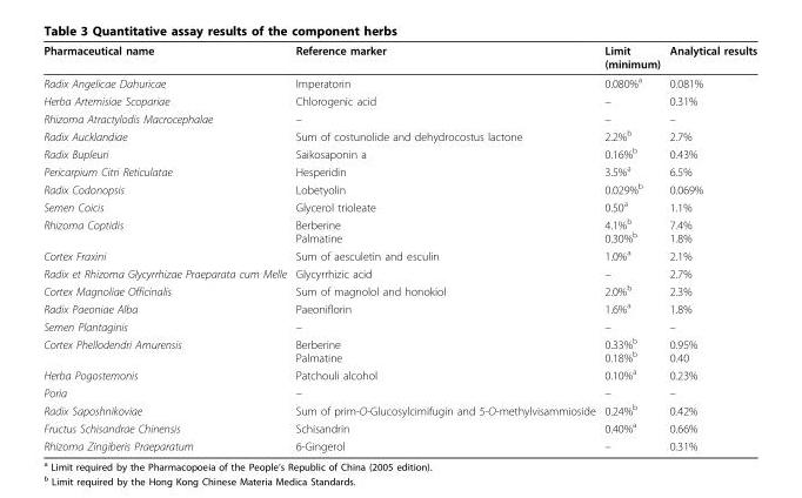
<table><thead><tr><td>Pharmaceutical name</td><td>Reference marker</td><td>Limit (minimum)</td><td>Analytical results</td></tr></thead><tbody><tr><td>Radix Angelicae Dahuricae</td><td>Imperatorin</td><td>0.080%<sup>a</sup></td><td>0.081%</td></tr><tr><td>Herba Artemisiae Scopariae</td><td>Chlorogenic acid</td><td>–</td><td>0.31%</td></tr><tr><td>Rhizoma Atractylodis Macrocephalae</td><td>–</td><td>–</td><td>–</td></tr><tr><td>Radix Aucklandiae</td><td>Sum of costunolide and dehydrocostus lactone</td><td>2.2%<sup>b</sup></td><td>2.7%</td></tr><tr><td>Radix Bupleuri</td><td>Saikosaponin a</td><td>0.16%<sup>b</sup></td><td>0.43%</td></tr><tr><td>Pericarpium Citri Reticulatae</td><td>Hesperidin</td><td>3.5%<sup>a</sup></td><td>6.5%</td></tr><tr><td>Radix Codonopsis</td><td>Lobetyolin</td><td>0.029%<sup>b</sup></td><td>0.069%</td></tr><tr><td>Semen Coicis</td><td>Glycerol trioleate</td><td>0.50<sup>a</sup></td><td>1.1%</td></tr><tr><td>Rhizoma Coptidis</td><td>Berberine Palmatine</td><td>4.1%<sup>b</sup> 0.30%<sup>b</sup></td><td>7.4% 1.8%</td></tr><tr><td>Cortex Fraxini</td><td>Sum of aesculetin and esculin</td><td>1.0%<sup>a</sup></td><td>2.1%</td></tr><tr><td>Radix et Rhizoma Glycyrrhizae Praeparata cum Melle</td><td>Glycyrrhizic acid</td><td>–</td><td>2.7%</td></tr><tr><td>Cortex Magnoliae Officinalis</td><td>Sum of magnolol and honokiol</td><td>2.0%<sup>b</sup></td><td>2.3%</td></tr><tr><td>Radix Paeoniae Alba</td><td>Paeoniflorin</td><td>1.6%<sup>a</sup></td><td>1.8%</td></tr><tr><td>Semen Plantaginis</td><td>–</td><td>–</td><td>–</td></tr><tr><td>Cortex Phellodendri Amurensis</td><td>Berberine Palmatine</td><td>0.33%<sup>b</sup> 0.18%<sup>b</sup></td><td>0.95% 0.40</td></tr><tr><td>Herba Pogostemonis</td><td>Patchouli alcohol</td><td>0.10%<sup>a</sup></td><td>0.23%</td></tr><tr><td>Poria</td><td>–</td><td>–</td><td>–</td></tr><tr><td>Radix Saposhnikoviae</td><td>Sum of prim-O-Glucosylcimifugin and 5-O-methylvisammioside</td><td>0.24%<sup>b</sup></td><td>0.42%</td></tr><tr><td>Fructus Schisandrae Chinensis</td><td>Schisandrin</td><td>0.40%<sup>a</sup></td><td>0.66%</td></tr><tr><td>Rhizoma Zingiberis Praeparatum</td><td>6-Gingerol</td><td>–</td><td>0.31%</td></tr></tbody></table>